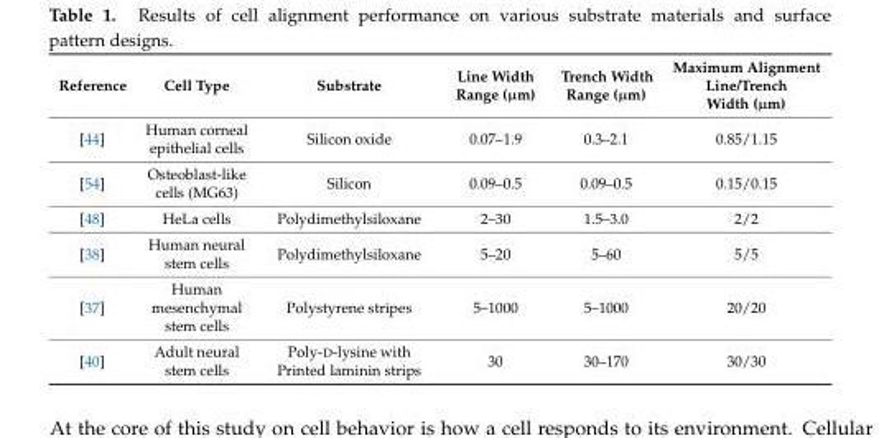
<table><thead><tr><td>Reference</td><td>Cell Type</td><td>Substrate</td><td>Line Width Range (µm)</td><td>Trench Width Range (µm)</td><td>Maximum Alignment Line/Trench Width (µm)</td></tr></thead><tbody><tr><td>[44]</td><td>Human corneal epithelial cells</td><td>Silicon oxide</td><td>0.07–1.9</td><td>0.3–2.1</td><td>0.85/1.15</td></tr><tr><td>[54]</td><td>Osteoblast-like cells (MG63)</td><td>Silicon</td><td>0.09–0.5</td><td>0.09–0.5</td><td>0.15/0.15</td></tr><tr><td>[48]</td><td>HeLa cells</td><td>Polydimethylsiloxane</td><td>2–30</td><td>1.5–3.0</td><td>2/2</td></tr><tr><td>[38]</td><td>Human neural stem cells</td><td>Polydimethylsiloxane</td><td>5–20</td><td>5–60</td><td>5/5</td></tr><tr><td>[37]</td><td>Human mesenchymal stem cells</td><td>Polystyrene stripes</td><td>5–1000</td><td>5–1000</td><td>20/20</td></tr><tr><td>[40]</td><td>Adult neural stem cells</td><td>Poly-D-lysine with Printed laminin strips</td><td>30</td><td>30–170</td><td>30/30</td></tr></tbody></table>